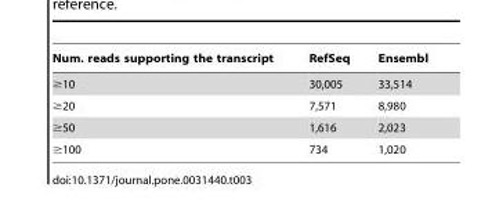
<table><thead><tr><td>Num. reads supporting the transcript</td><td>RefSeq</td><td>Ensembl</td></tr></thead><tbody><tr><td>≥10</td><td>30,005</td><td>33,514</td></tr><tr><td>≥20</td><td>7,571</td><td>8,980</td></tr><tr><td>≥50</td><td>1,616</td><td>2,023</td></tr><tr><td>≥100</td><td>734</td><td>1,020</td></tr></tbody></table>